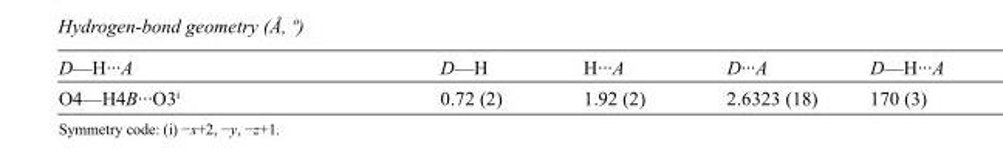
<table><tbody><tr><td>D—H···A</td><td>D—H</td><td>H···A</td><td>D···A</td><td>D—H···A</td></tr><tr><td>O4—H4B···O3<sup>i</sup></td><td>0.72 (2)</td><td>1.92 (2)</td><td>2.6323 (18)</td><td>170 (3)</td></tr></tbody></table>